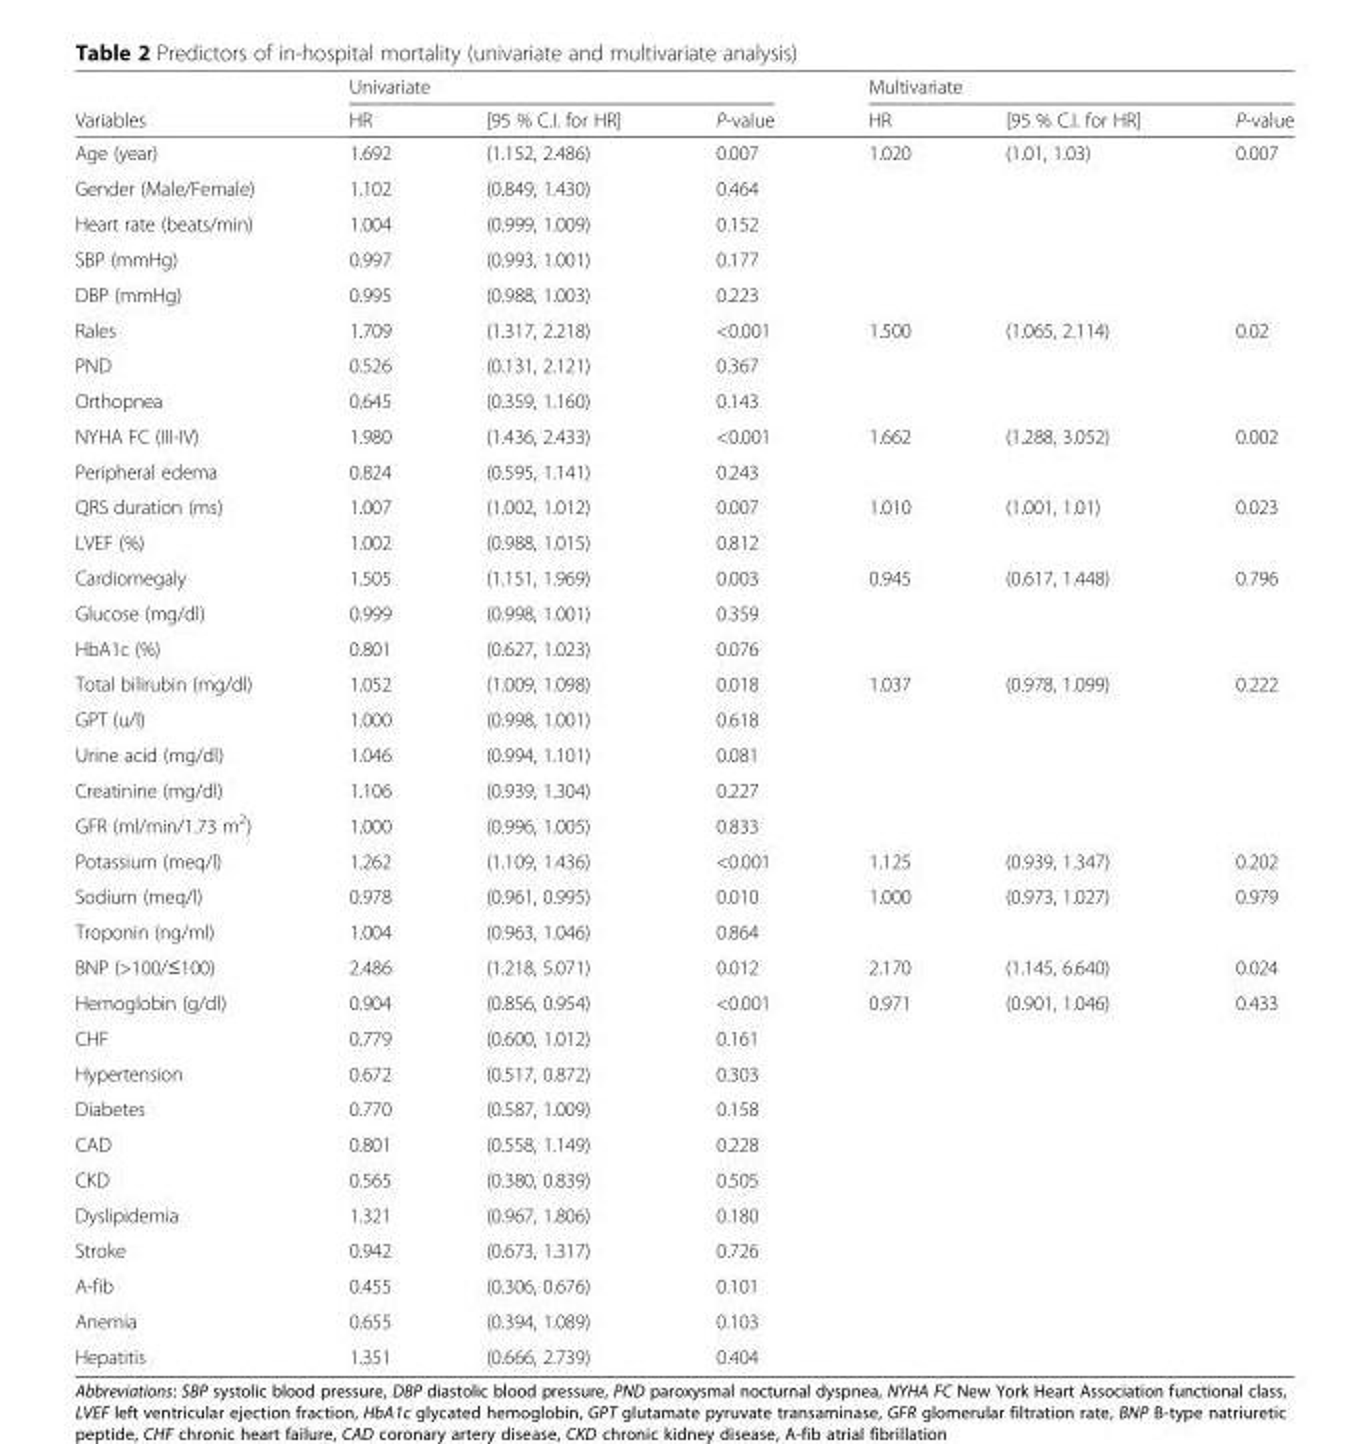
<table><thead><tr><td rowspan="2">Variables</td><td colspan="3">Univariate</td><td colspan="3">Multivariate</td></tr><tr><td>HR</td><td>[95 % C.I. for HR]</td><td>P-value</td><td>HR</td><td>[95 % C.I. for HR]</td><td>P-value</td></tr></thead><tbody><tr><td>Age (year)</td><td>1.692</td><td>(1.152, 2.486)</td><td>0.007</td><td>1.020</td><td>(1.01, 1.03)</td><td>0.007</td></tr><tr><td>Gender (Male/Female)</td><td>1.102</td><td>(0.849, 1.430)</td><td>0.464</td><td></td><td></td><td></td></tr><tr><td>Heart rate (beats/min)</td><td>1.004</td><td>(0.999, 1.009)</td><td>0.152</td><td></td><td></td><td></td></tr><tr><td>SBP (mmHg)</td><td>0.997</td><td>(0.993, 1.001)</td><td>0.177</td><td></td><td></td><td></td></tr><tr><td>DBP (mmHg)</td><td>0.995</td><td>(0.988, 1.003)</td><td>0.223</td><td></td><td></td><td></td></tr><tr><td>Rales</td><td>1.709</td><td>(1.317, 2.218)</td><td>&lt;0.001</td><td>1.500</td><td>(1.065, 2.114)</td><td>0.02</td></tr><tr><td>PND</td><td>0.526</td><td>(0.131, 2.121)</td><td>0.367</td><td></td><td></td><td></td></tr><tr><td>Orthopnea</td><td>0.645</td><td>(0.359, 1.160)</td><td>0.143</td><td></td><td></td><td></td></tr><tr><td>NYHA FC (III-IV)</td><td>1.980</td><td>(1.436, 2.433)</td><td>&lt;0.001</td><td>1.662</td><td>(1.288, 3.052)</td><td>0.002</td></tr><tr><td>Peripheral edema</td><td>0.824</td><td>(0.595, 1.141)</td><td>0.243</td><td></td><td></td><td></td></tr><tr><td>QRS duration (ms)</td><td>1.007</td><td>(1.002, 1.012)</td><td>0.007</td><td>1.010</td><td>(1.001, 1.01)</td><td>0.023</td></tr><tr><td>LVEF (%)</td><td>1.002</td><td>(0.988, 1.015)</td><td>0.812</td><td></td><td></td><td></td></tr><tr><td>Cardiomegaly</td><td>1.505</td><td>(1.151, 1.969)</td><td>0.003</td><td>0.945</td><td>(0.617, 1.448)</td><td>0.796</td></tr><tr><td>Glucose (mg/dl)</td><td>0.999</td><td>(0.998, 1.001)</td><td>0.359</td><td></td><td></td><td></td></tr><tr><td>HbA1c (%)</td><td>0.801</td><td>(0.627, 1.023)</td><td>0.076</td><td></td><td></td><td></td></tr><tr><td>Total bilirubin (mg/dl)</td><td>1.052</td><td>(1.009, 1.098)</td><td>0.018</td><td>1.037</td><td>(0.978, 1.099)</td><td>0.222</td></tr><tr><td>GPT (u/l)</td><td>1.000</td><td>(0.998, 1.001)</td><td>0.618</td><td></td><td></td><td></td></tr><tr><td>Urine acid (mg/dl)</td><td>1.046</td><td>(0.994, 1.101)</td><td>0.081</td><td></td><td></td><td></td></tr><tr><td>Creatinine (mg/dl)</td><td>1.106</td><td>(0.939, 1.304)</td><td>0.227</td><td></td><td></td><td></td></tr><tr><td>GFR (ml/min/1.73 m<sup>2</sup>)</td><td>1.000</td><td>(0.996, 1.005)</td><td>0.833</td><td></td><td></td><td></td></tr><tr><td>Potassium (meq/l)</td><td>1.262</td><td>(1.109, 1.436)</td><td>&lt;0.001</td><td>1.125</td><td>(0.939, 1.347)</td><td>0.202</td></tr><tr><td>Sodium (meq/l)</td><td>0.978</td><td>(0.961, 0.995)</td><td>0.010</td><td>1.000</td><td>(0.973, 1.027)</td><td>0.979</td></tr><tr><td>Troponin (ng/ml)</td><td>1.004</td><td>(0.963, 1.046)</td><td>0.864</td><td></td><td></td><td></td></tr><tr><td>BNP (&gt;100/≤100)</td><td>2.486</td><td>(1.218, 5.071)</td><td>0.012</td><td>2.170</td><td>(1.145, 6.640)</td><td>0.024</td></tr><tr><td>Hemoglobin (g/dl)</td><td>0.904</td><td>(0.856, 0.954)</td><td>&lt;0.001</td><td>0.971</td><td>(0.901, 1.046)</td><td>0.433</td></tr><tr><td>CHF</td><td>0.779</td><td>(0.600, 1.012)</td><td>0.161</td><td></td><td></td><td></td></tr><tr><td>Hypertension</td><td>0.672</td><td>(0.517, 0.872)</td><td>0.303</td><td></td><td></td><td></td></tr><tr><td>Diabetes</td><td>0.770</td><td>(0.587, 1.009)</td><td>0.158</td><td></td><td></td><td></td></tr><tr><td>CAD</td><td>0.801</td><td>(0.558, 1.149)</td><td>0.228</td><td></td><td></td><td></td></tr><tr><td>CKD</td><td>0.565</td><td>(0.380, 0.839)</td><td>0.505</td><td></td><td></td><td></td></tr><tr><td>Dyslipidemia</td><td>1.321</td><td>(0.967, 1.806)</td><td>0.180</td><td></td><td></td><td></td></tr><tr><td>Stroke</td><td>0.942</td><td>(0.673, 1.317)</td><td>0.726</td><td></td><td></td><td></td></tr><tr><td>A-fib</td><td>0.455</td><td>(0.306, 0.676)</td><td>0.101</td><td></td><td></td><td></td></tr><tr><td>Anemia</td><td>0.655</td><td>(0.394, 1.089)</td><td>0.103</td><td></td><td></td><td></td></tr><tr><td>Hepatitis</td><td>1.351</td><td>(0.666, 2.739)</td><td>0.404</td><td></td><td></td><td></td></tr></tbody></table>